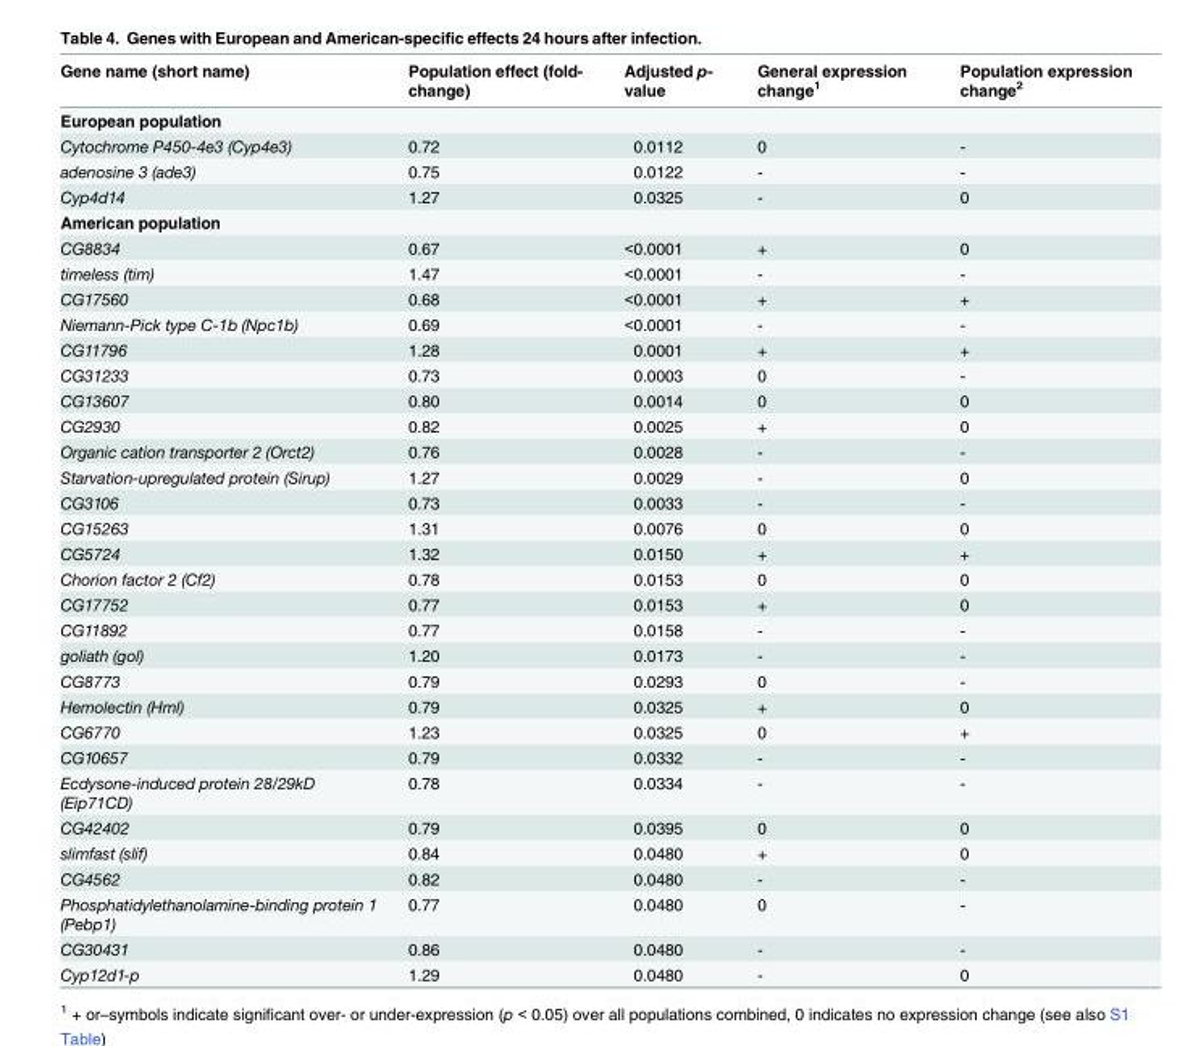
<table><thead><tr><td>Gene name (short name)</td><td>Population effect (fold- change)</td><td>Adjusted p- value</td><td>General expression change<sup>1</sup></td><td>Population expression change<sup>2</sup></td></tr></thead><tbody><tr><td colspan="5">European population</td></tr><tr><td>Cytochrome P450-4e3 (Cyp4e3)</td><td>0.72</td><td>0.0112</td><td>0</td><td>-</td></tr><tr><td>adenosine 3 (ade3)</td><td>0.75</td><td>0.0122</td><td>-</td><td>-</td></tr><tr><td>Cyp4d14</td><td>1.27</td><td>0.0325</td><td>-</td><td>0</td></tr><tr><td colspan="5">American population</td></tr><tr><td>CG8834</td><td>0.67</td><td>&lt;0.0001</td><td>+</td><td>0</td></tr><tr><td>timeless (tim)</td><td>1.47</td><td>&lt;0.0001</td><td>-</td><td>-</td></tr><tr><td>CG17560</td><td>0.68</td><td>&lt;0.0001</td><td>+</td><td>+</td></tr><tr><td>Niemann-Pick type C-1b (Npc1b)</td><td>0.69</td><td>&lt;0.0001</td><td>-</td><td>-</td></tr><tr><td>CG11796</td><td>1.28</td><td>0.0001</td><td>+</td><td>+</td></tr><tr><td>CG31233</td><td>0.73</td><td>0.0003</td><td>0</td><td>-</td></tr><tr><td>CG13607</td><td>0.80</td><td>0.0014</td><td>0</td><td>0</td></tr><tr><td>CG2930</td><td>0.82</td><td>0.0025</td><td>+</td><td>0</td></tr><tr><td>Organic cation transporter 2 (Orct2)</td><td>0.76</td><td>0.0028</td><td>-</td><td>-</td></tr><tr><td>Starvation-upregulated protein (Sirup)</td><td>1.27</td><td>0.0029</td><td>-</td><td>0</td></tr><tr><td>CG3106</td><td>0.73</td><td>0.0033</td><td>-</td><td>-</td></tr><tr><td>CG15263</td><td>1.31</td><td>0.0076</td><td>0</td><td>0</td></tr><tr><td>CG5724</td><td>1.32</td><td>0.0150</td><td>+</td><td>+</td></tr><tr><td>Chorion factor 2 (Cf2)</td><td>0.78</td><td>0.0153</td><td>0</td><td>0</td></tr><tr><td>CG17752</td><td>0.77</td><td>0.0153</td><td>+</td><td>0</td></tr><tr><td>CG11892</td><td>0.77</td><td>0.0158</td><td>-</td><td>-</td></tr><tr><td>goliath (gol)</td><td>1.20</td><td>0.0173</td><td>-</td><td>-</td></tr><tr><td>CG8773</td><td>0.79</td><td>0.0293</td><td>0</td><td>-</td></tr><tr><td>Hemolectin (Hml)</td><td>0.79</td><td>0.0325</td><td>+</td><td>0</td></tr><tr><td>CG6770</td><td>1.23</td><td>0.0325</td><td>0</td><td>+</td></tr><tr><td>CG10657</td><td>0.79</td><td>0.0332</td><td>-</td><td>-</td></tr><tr><td>Ecdysone-induced protein 28/29kD (Eip71CD)</td><td>0.78</td><td>0.0334</td><td>-</td><td>-</td></tr><tr><td>CG42402</td><td>0.79</td><td>0.0395</td><td>0</td><td>0</td></tr><tr><td>slimfast (slif)</td><td>0.84</td><td>0.0480</td><td>+</td><td>0</td></tr><tr><td>CG4562</td><td>0.82</td><td>0.0480</td><td>-</td><td>-</td></tr><tr><td>Phosphatidylethanolamine-binding protein 1 (Pebp1)</td><td>0.77</td><td>0.0480</td><td>0</td><td>-</td></tr><tr><td>CG30431</td><td>0.86</td><td>0.0480</td><td>-</td><td>-</td></tr><tr><td>Cyp12d1-p</td><td>1.29</td><td>0.0480</td><td>-</td><td>0</td></tr></tbody></table>